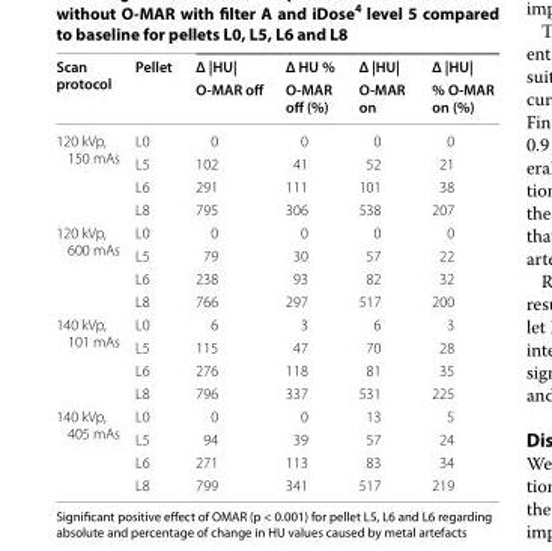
<table><thead><tr><td rowspan="2">Scan protocol</td><td rowspan="2">Pellet</td><td rowspan="2">Δ |HU| O-MAR off</td><td rowspan="2">Δ HU % O-MAR off (%)</td><td rowspan="2">Δ |HU| O-MAR on</td><td rowspan="2">Δ |HU| % O-MAR on (%)</td></tr><tr></tr></thead><tbody><tr><td rowspan="4">120 kVp, 150 mAs</td><td>L0</td><td>0</td><td>0</td><td>0</td><td>0</td></tr><tr><td>L5</td><td>102</td><td>41</td><td>52</td><td>21</td></tr><tr><td>L6</td><td>291</td><td>111</td><td>101</td><td>38</td></tr><tr><td>L8</td><td>795</td><td>306</td><td>538</td><td>207</td></tr><tr><td rowspan="4">120 kVp, 600 mAs</td><td>L0</td><td>0</td><td>0</td><td>0</td><td>0</td></tr><tr><td>L5</td><td>79</td><td>30</td><td>57</td><td>22</td></tr><tr><td>L6</td><td>238</td><td>93</td><td>82</td><td>32</td></tr><tr><td>L8</td><td>766</td><td>297</td><td>517</td><td>200</td></tr><tr><td rowspan="4">140 kVp, 101 mAs</td><td>L0</td><td>6</td><td>3</td><td>6</td><td>3</td></tr><tr><td>L5</td><td>115</td><td>47</td><td>70</td><td>28</td></tr><tr><td>L6</td><td>276</td><td>118</td><td>81</td><td>35</td></tr><tr><td>L8</td><td>796</td><td>337</td><td>531</td><td>225</td></tr><tr><td rowspan="4">140 kVp, 405 mAs</td><td>L0</td><td>0</td><td>0</td><td>13</td><td>5</td></tr><tr><td>L5</td><td>94</td><td>39</td><td>57</td><td>24</td></tr><tr><td>L6</td><td>271</td><td>113</td><td>83</td><td>34</td></tr><tr><td>L8</td><td>799</td><td>341</td><td>517</td><td>219</td></tr></tbody></table>